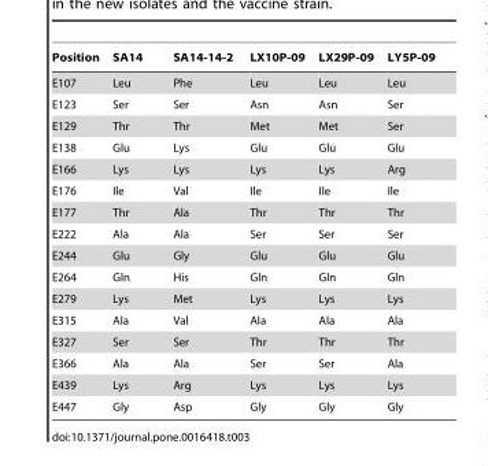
<table><thead><tr><td>Position</td><td>SA14</td><td>SA14-14-2</td><td>LX10P-09</td><td>LX29P-09</td><td>LY5P-09</td></tr></thead><tbody><tr><td>E107</td><td>Leu</td><td>Phe</td><td>Leu</td><td>Leu</td><td>Leu</td></tr><tr><td>E123</td><td>Ser</td><td>Ser</td><td>Asn</td><td>Asn</td><td>Ser</td></tr><tr><td>E129</td><td>Thr</td><td>Thr</td><td>Met</td><td>Met</td><td>Ser</td></tr><tr><td>E138</td><td>Glu</td><td>Lys</td><td>Glu</td><td>Glu</td><td>Glu</td></tr><tr><td>E166</td><td>Lys</td><td>Lys</td><td>Lys</td><td>Lys</td><td>Arg</td></tr><tr><td>E176</td><td>Ile</td><td>Val</td><td>Ile</td><td>Ile</td><td>Ile</td></tr><tr><td>E177</td><td>Thr</td><td>Ala</td><td>Thr</td><td>Thr</td><td>Thr</td></tr><tr><td>E222</td><td>Ala</td><td>Ala</td><td>Ser</td><td>Ser</td><td>Ser</td></tr><tr><td>E244</td><td>Glu</td><td>Gly</td><td>Glu</td><td>Glu</td><td>Glu</td></tr><tr><td>E264</td><td>Gln</td><td>His</td><td>Gln</td><td>Gln</td><td>Gln</td></tr><tr><td>E279</td><td>Lys</td><td>Met</td><td>Lys</td><td>Lys</td><td>Lys</td></tr><tr><td>E315</td><td>Ala</td><td>Val</td><td>Ala</td><td>Ala</td><td>Ala</td></tr><tr><td>E327</td><td>Ser</td><td>Ser</td><td>Thr</td><td>Thr</td><td>Thr</td></tr><tr><td>E366</td><td>Ala</td><td>Ala</td><td>Ser</td><td>Ser</td><td>Ala</td></tr><tr><td>E439</td><td>Lys</td><td>Arg</td><td>Lys</td><td>Lys</td><td>Lys</td></tr><tr><td>E447</td><td>Gly</td><td>Asp</td><td>Gly</td><td>Gly</td><td>Gly</td></tr></tbody></table>